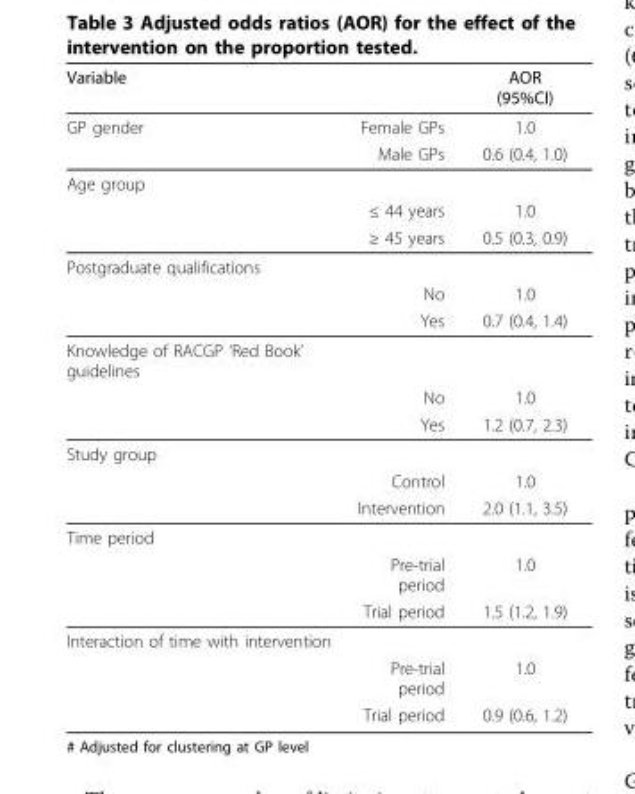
<table><thead><tr><td>Variable</td><td></td><td>AOR (95%CI)</td></tr></thead><tbody><tr><td rowspan="2">GP gender</td><td>Female GPs</td><td>1.0</td></tr><tr><td>Male GPs</td><td>0.6 (0.4, 1.0)</td></tr><tr><td colspan="3">Age group</td></tr><tr><td></td><td>≤ 44 years</td><td>1.0</td></tr><tr><td></td><td>≥ 45 years</td><td>0.5 (0.3, 0.9)</td></tr><tr><td colspan="3">Postgraduate qualifications</td></tr><tr><td></td><td>No</td><td>1.0</td></tr><tr><td></td><td>Yes</td><td>0.7 (0.4, 1.4)</td></tr><tr><td colspan="3">Knowledge of RACGP ‘Red Book’ guidelines</td></tr><tr><td></td><td>No</td><td>1.0</td></tr><tr><td></td><td>Yes</td><td>1.2 (0.7, 2.3)</td></tr><tr><td colspan="3">Study group</td></tr><tr><td></td><td>Control</td><td>1.0</td></tr><tr><td></td><td>Intervention</td><td>2.0 (1.1, 3.5)</td></tr><tr><td colspan="3">Time period</td></tr><tr><td></td><td>Pre-trial period</td><td>1.0</td></tr><tr><td></td><td>Trial period</td><td>1.5 (1.2, 1.9)</td></tr><tr><td colspan="3">Interaction of time with intervention</td></tr><tr><td></td><td>Pre-trial period</td><td>1.0</td></tr><tr><td></td><td>Trial period</td><td>0.9 (0.6, 1.2)</td></tr></tbody></table>